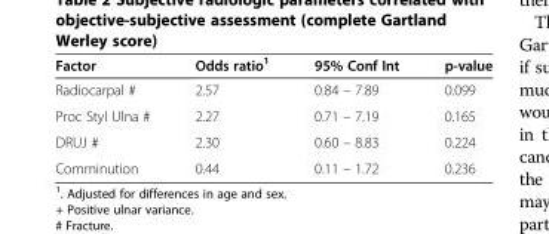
<table><thead><tr><td>Factor</td><td>Odds ratio<sup>1</sup></td><td>95% Conf Int</td><td>p-value</td></tr></thead><tbody><tr><td>Radiocarpal #</td><td>2.57</td><td>0.84 – 7.89</td><td>0.099</td></tr><tr><td>Proc Styl Ulna #</td><td>2.27</td><td>0.71 – 7.19</td><td>0.165</td></tr><tr><td>DRUJ #</td><td>2.30</td><td>0.60 – 8.83</td><td>0.224</td></tr><tr><td>Comminution</td><td>0.44</td><td>0.11 – 1.72</td><td>0.236</td></tr></tbody></table>